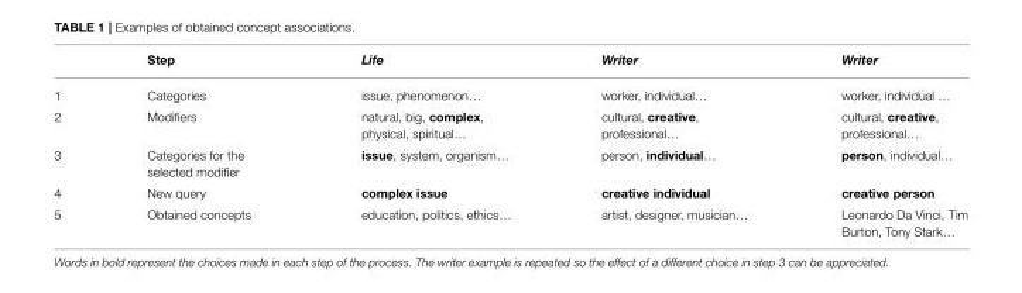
<table><thead><tr><td></td><td>Step</td><td>Life</td><td>Writer</td><td>Writer</td></tr></thead><tbody><tr><td>1</td><td>Categories</td><td>issue, phenomenon…</td><td>worker, individual…</td><td>worker, individual …</td></tr><tr><td>2</td><td>Modifiers</td><td>natural, big, complex, physical, spiritual…</td><td>cultural, creative, professional…</td><td>cultural, creative, professional…</td></tr><tr><td>3</td><td>Categories for the selected modifier</td><td>issue, system, organism…</td><td>person, individual…</td><td>person, individual…</td></tr><tr><td>4</td><td>New query</td><td>complex issue</td><td>creative individual</td><td>creative person</td></tr><tr><td>5</td><td>Obtained concepts</td><td>education, politics, ethics…</td><td>artist, designer, musician…</td><td>Leonardo Da Vinci, Tim Burton, Tony Stark…</td></tr></tbody></table>